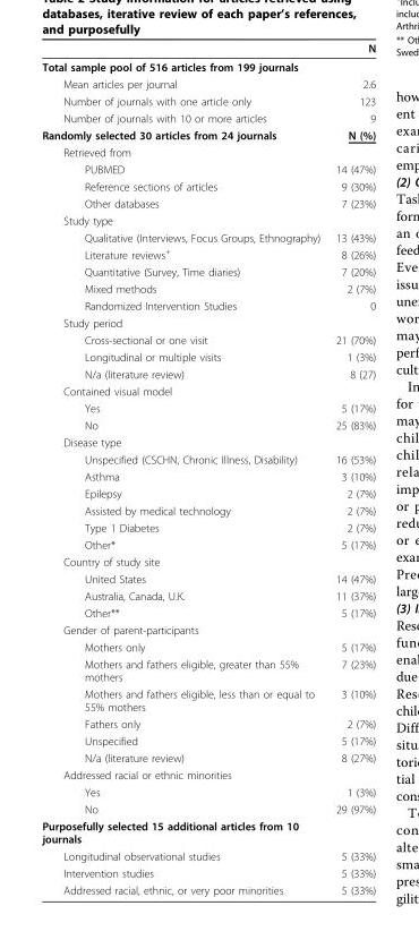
<table><thead><tr><td></td><td>N</td></tr></thead><tbody><tr><td colspan="2">Total sample pool of 516 articles from 199 journals</td></tr><tr><td>Mean articles per journal</td><td>2.6</td></tr><tr><td>Number of journals with one article only</td><td>123</td></tr><tr><td>Number of journals with 10 or more articles</td><td>9</td></tr><tr><td>Randomly selected 30 articles from 24 journals</td><td>N (%)</td></tr><tr><td colspan="2">Retrieved from</td></tr><tr><td>PUBMED</td><td>14 (47%)</td></tr><tr><td>Reference sections of articles</td><td>9 (30%)</td></tr><tr><td>Other databases</td><td>7 (23%)</td></tr><tr><td colspan="2">Study type</td></tr><tr><td>Qualitative (Interviews, Focus Groups, Ethnography)</td><td>13 (43%)</td></tr><tr><td>Literature reviews<sup>+</sup></td><td>8 (26%)</td></tr><tr><td>Quantitative (Survey, Time diaries)</td><td>7 (20%)</td></tr><tr><td>Mixed methods</td><td>2 (7%)</td></tr><tr><td>Randomized Intervention Studies</td><td>0</td></tr><tr><td colspan="2">Study period</td></tr><tr><td>Cross-sectional or one visit</td><td>21 (70%)</td></tr><tr><td>Longitudinal or multiple visits</td><td>1 (3%)</td></tr><tr><td>N/a (literature review)</td><td>8 (27)</td></tr><tr><td colspan="2">Contained visual model</td></tr><tr><td>Yes</td><td>5 (17%)</td></tr><tr><td>No</td><td>25 (83%)</td></tr><tr><td colspan="2">Disease type</td></tr><tr><td>Unspecified (CSCHN, Chronic Illness, Disability)</td><td>16 (53%)</td></tr><tr><td>Asthma</td><td>3 (10%)</td></tr><tr><td>Epilepsy</td><td>2 (7%)</td></tr><tr><td>Assisted by medical technology</td><td>2 (7%)</td></tr><tr><td>Type 1 Diabetes</td><td>2 (7%)</td></tr><tr><td>Other*</td><td>5 (17%)</td></tr><tr><td colspan="2">Country of study site</td></tr><tr><td>United States</td><td>14 (47%)</td></tr><tr><td>Australia, Canada, U.K.</td><td>11 (37%)</td></tr><tr><td>Other**</td><td>5 (17%)</td></tr><tr><td colspan="2">Gender of parent-participants</td></tr><tr><td>Mothers only</td><td>5 (17%)</td></tr><tr><td>Mothers and fathers eligible, greater than 55% mothers</td><td>7 (23%)</td></tr><tr><td>Mothers and fathers eligible, less than or equal to 55% mothers</td><td>3 (10%)</td></tr><tr><td>Fathers only</td><td>2 (7%)</td></tr><tr><td>Unspecified</td><td>5 (17%)</td></tr><tr><td>N/a (literature review)</td><td>8 (27%)</td></tr><tr><td colspan="2">Addressed racial or ethnic minorities</td></tr><tr><td>Yes</td><td>1 (3%)</td></tr><tr><td>No</td><td>29 (97%)</td></tr><tr><td colspan="2">Purposefully selected 15 additional articles from 10 journals</td></tr><tr><td>Longitudinal observational studies</td><td>5 (33%)</td></tr><tr><td>Intervention studies</td><td>5 (33%)</td></tr><tr><td>Addressed racial, ethnic, or very poor minorities</td><td>5 (33%)</td></tr></tbody></table>